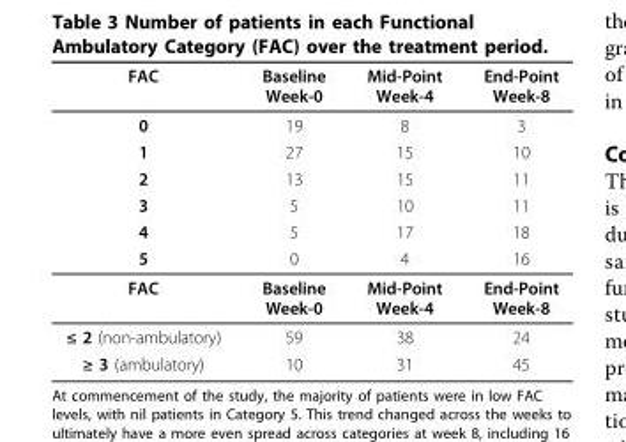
<table><thead><tr><td>FAC</td><td>Baseline Week-0</td><td>Mid-Point Week-4</td><td>End-Point Week-8</td></tr></thead><tbody><tr><td>0</td><td>19</td><td>8</td><td>3</td></tr><tr><td>1</td><td>27</td><td>15</td><td>10</td></tr><tr><td>2</td><td>13</td><td>15</td><td>11</td></tr><tr><td>3</td><td>5</td><td>10</td><td>11</td></tr><tr><td>4</td><td>5</td><td>17</td><td>18</td></tr><tr><td>5</td><td>0</td><td>4</td><td>16</td></tr><tr><td>FAC</td><td>Baseline Week-0</td><td>Mid-Point Week-4</td><td>End-Point Week-8</td></tr><tr><td>≤ 2 (non-ambulatory)</td><td>59</td><td>38</td><td>24</td></tr><tr><td>≥ 3 (ambulatory)</td><td>10</td><td>31</td><td>45</td></tr></tbody></table>